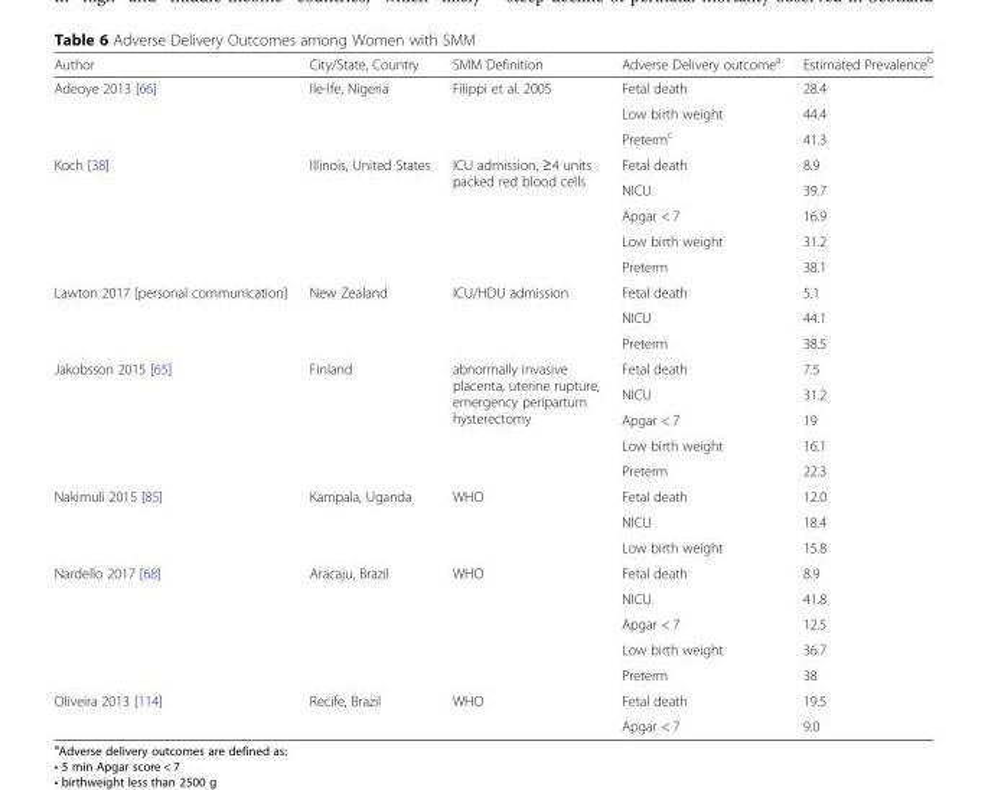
<table><thead><tr><td>Author</td><td>City/State, Country</td><td>SMM Definition</td><td>Adverse Delivery outcome<sup>a</sup></td><td>Estimated Prevalence<sup>b</sup></td></tr></thead><tbody><tr><td rowspan="3">Adeoye 2013 [66]</td><td rowspan="3">Ile-Ife, Nigeria</td><td rowspan="3">Filippi et al. 2005</td><td>Fetal death</td><td>28.4</td></tr><tr><td>Low birth weight</td><td>44.4</td></tr><tr><td>Preterm<sup>c</sup></td><td>41.3</td></tr><tr><td rowspan="5">Koch [38]</td><td rowspan="5">Illinois, United States</td><td rowspan="5">ICU admission, ≥4 units packed red blood cells</td><td>Fetal death</td><td>8.9</td></tr><tr><td>NICU</td><td>39.7</td></tr><tr><td>Apgar &lt; 7</td><td>16.9</td></tr><tr><td>Low birth weight</td><td>31.2</td></tr><tr><td>Preterm</td><td>38.1</td></tr><tr><td rowspan="3">Lawton 2017 [personal communication]</td><td rowspan="3">New Zealand</td><td rowspan="3">ICU/HDU admission</td><td>Fetal death</td><td>5.1</td></tr><tr><td>NICU</td><td>44.1</td></tr><tr><td>Preterm</td><td>38.5</td></tr><tr><td rowspan="5">Jakobsson 2015 [65]</td><td rowspan="5">Finland</td><td rowspan="5">abnormally invasive placenta, uterine rupture, emergency peripartum hysterectomy</td><td>Fetal death</td><td>7.5</td></tr><tr><td>NICU</td><td>31.2</td></tr><tr><td>Apgar &lt; 7</td><td>19</td></tr><tr><td>Low birth weight</td><td>16.1</td></tr><tr><td>Preterm</td><td>22.3</td></tr><tr><td rowspan="3">Nakimuli 2015 [85]</td><td rowspan="3">Kampala, Uganda</td><td rowspan="3">WHO</td><td>Fetal death</td><td>12.0</td></tr><tr><td>NICU</td><td>18.4</td></tr><tr><td>Low birth weight</td><td>15.8</td></tr><tr><td rowspan="5">Nardello 2017 [68]</td><td rowspan="5">Aracaju, Brazil</td><td rowspan="5">WHO</td><td>Fetal death</td><td>8.9</td></tr><tr><td>NICU</td><td>41.8</td></tr><tr><td>Apgar &lt; 7</td><td>12.5</td></tr><tr><td>Low birth weight</td><td>36.7</td></tr><tr><td>Preterm</td><td>38</td></tr><tr><td rowspan="2">Oliveira 2013 [114]</td><td rowspan="2">Recife, Brazil</td><td rowspan="2">WHO</td><td>Fetal death</td><td>19.5</td></tr><tr><td>Apgar &lt; 7</td><td>9.0</td></tr></tbody></table>